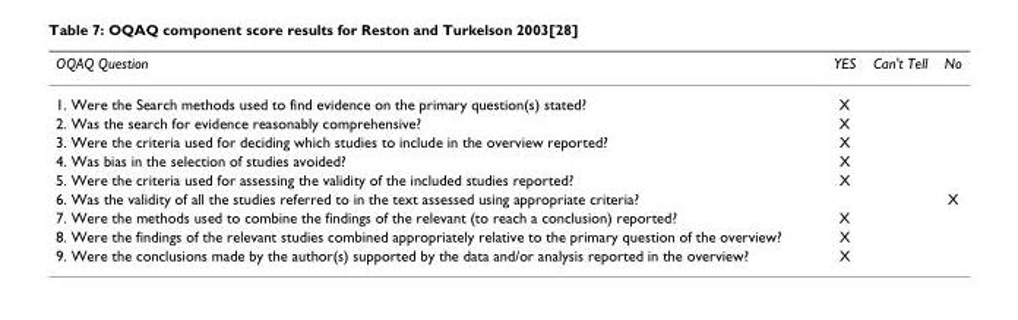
<table><thead><tr><td>OQAQ Question</td><td>YES</td><td>Can&#x27;t Tell</td><td>No</td></tr></thead><tbody><tr><td>1. Were the Search methods used to find evidence on the primary question(s) stated?</td><td>X</td><td></td><td></td></tr><tr><td>2. Was the search for evidence reasonably comprehensive?</td><td>X</td><td></td><td></td></tr><tr><td>3. Were the criteria used for deciding which studies to include in the overview reported?</td><td>X</td><td></td><td></td></tr><tr><td>4. Was bias in the selection of studies avoided?</td><td>X</td><td></td><td></td></tr><tr><td>5. Were the criteria used for assessing the validity of the included studies reported?</td><td>X</td><td></td><td></td></tr><tr><td>6. Was the validity of all the studies referred to in the text assessed using appropriate criteria?</td><td></td><td></td><td>X</td></tr><tr><td>7. Were the methods used to combine the findings of the relevant (to reach a conclusion) reported?</td><td>X</td><td></td><td></td></tr><tr><td>8. Were the findings of the relevant studies combined appropriately relative to the primary question of the overview?</td><td>X</td><td></td><td></td></tr><tr><td>9. Were the conclusions made by the author(s) supported by the data and/or analysis reported in the overview?</td><td>X</td><td></td><td></td></tr></tbody></table>